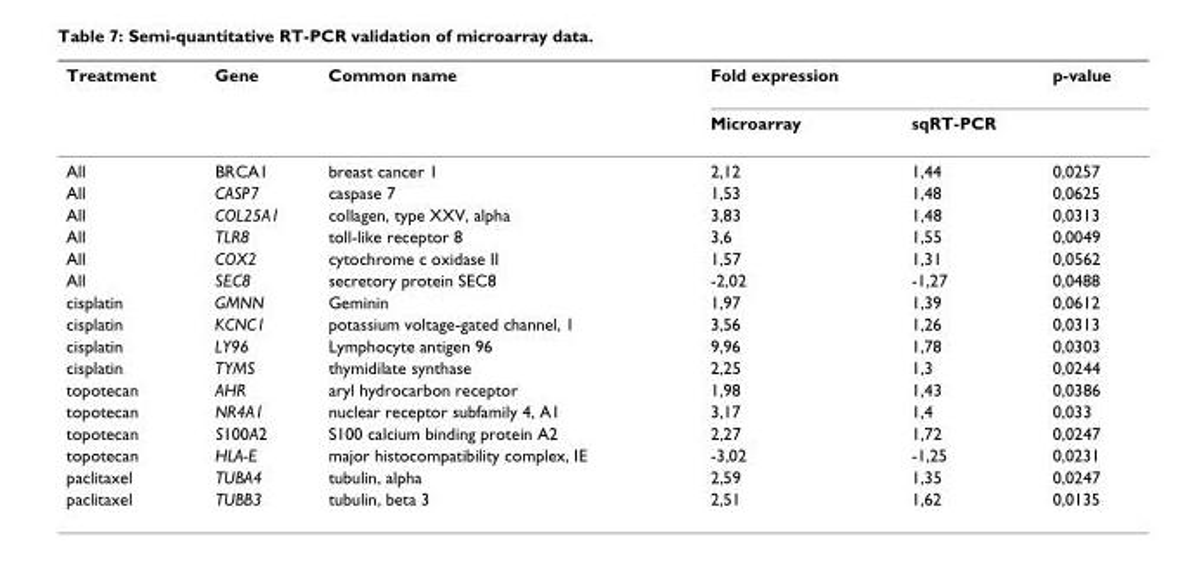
<table><thead><tr><td rowspan="2">Treatment</td><td rowspan="2">Gene</td><td rowspan="2">Common name</td><td rowspan="2">Fold expression Microarray</td><td rowspan="2">sqRT-PCR</td><td rowspan="2">p-value</td></tr><tr></tr></thead><tbody><tr><td>All</td><td>BRCA1</td><td>breast cancer 1</td><td>2,12</td><td>1,44</td><td>0,0257</td></tr><tr><td>All</td><td>CASP7</td><td>caspase 7</td><td>1,53</td><td>1,48</td><td>0,0625</td></tr><tr><td>All</td><td>COL25A1</td><td>collagen, type XXV, alpha</td><td>3,83</td><td>1,48</td><td>0,0313</td></tr><tr><td>All</td><td>TLR8</td><td>toll-like receptor 8</td><td>3,6</td><td>1,55</td><td>0,0049</td></tr><tr><td>All</td><td>COX2</td><td>cytochrome c oxidase II</td><td>1,57</td><td>1,31</td><td>0,0562</td></tr><tr><td>All</td><td>SEC8</td><td>secretory protein SEC8</td><td>-2,02</td><td>-1,27</td><td>0,0488</td></tr><tr><td>cisplatin</td><td>GMNN</td><td>Geminin</td><td>1,97</td><td>1,39</td><td>0,0612</td></tr><tr><td>cisplatin</td><td>KCNC1</td><td>potassium voltage-gated channel, 1</td><td>3,56</td><td>1,26</td><td>0,0313</td></tr><tr><td>cisplatin</td><td>LY96</td><td>Lymphocyte antigen 96</td><td>9,96</td><td>1,78</td><td>0,0303</td></tr><tr><td>cisplatin</td><td>TYMS</td><td>thymidilate synthase</td><td>2,25</td><td>1,3</td><td>0,0244</td></tr><tr><td>topotecan</td><td>AHR</td><td>aryl hydrocarbon receptor</td><td>1,98</td><td>1,43</td><td>0,0386</td></tr><tr><td>topotecan</td><td>NR4A1</td><td>nuclear receptor subfamily 4, A1</td><td>3,17</td><td>1,4</td><td>0,033</td></tr><tr><td>topotecan</td><td>S100A2</td><td>S100 calcium binding protein A2</td><td>2,27</td><td>1,72</td><td>0,0247</td></tr><tr><td>topotecan</td><td>HLA-E</td><td>major histocompatibility complex, IE</td><td>-3,02</td><td>-1,25</td><td>0,0231</td></tr><tr><td>paclitaxel</td><td>TUBA4</td><td>tubulin, alpha</td><td>2,59</td><td>1,35</td><td>0,0247</td></tr><tr><td>paclitaxel</td><td>TUBB3</td><td>tubulin, beta 3</td><td>2,51</td><td>1,62</td><td>0,0135</td></tr></tbody></table>